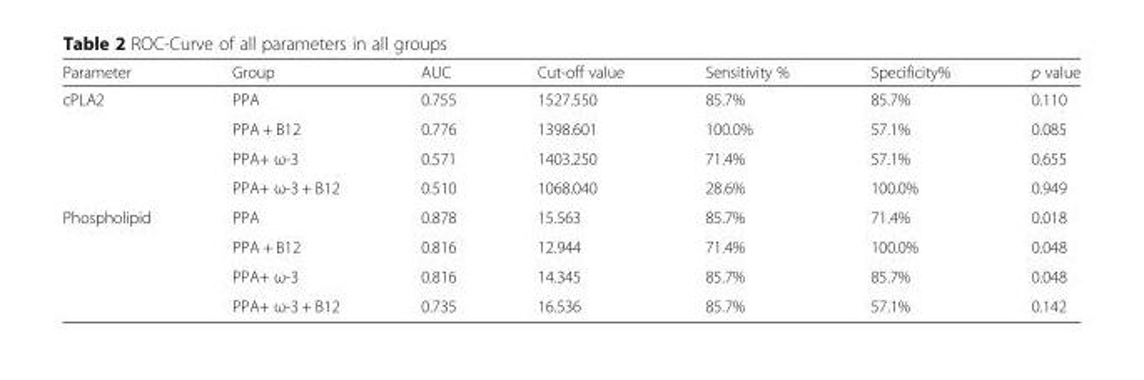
<table><thead><tr><td>Parameter</td><td>Group</td><td>AUC</td><td>Cut-off value</td><td>Sensitivity %</td><td>Specificity%</td><td>p value</td></tr></thead><tbody><tr><td rowspan="4">cPLA2</td><td>PPA</td><td>0.755</td><td>1527.550</td><td>85.7%</td><td>85.7%</td><td>0.110</td></tr><tr><td>PPA + B12</td><td>0.776</td><td>1398.601</td><td>100.0%</td><td>57.1%</td><td>0.085</td></tr><tr><td>PPA+ ω-3</td><td>0.571</td><td>1403.250</td><td>71.4%</td><td>57.1%</td><td>0.655</td></tr><tr><td>PPA+ ω-3 + B12</td><td>0.510</td><td>1068.040</td><td>28.6%</td><td>100.0%</td><td>0.949</td></tr><tr><td rowspan="4">Phospholipid</td><td>PPA</td><td>0.878</td><td>15.563</td><td>85.7%</td><td>71.4%</td><td>0.018</td></tr><tr><td>PPA + B12</td><td>0.816</td><td>12.944</td><td>71.4%</td><td>100.0%</td><td>0.048</td></tr><tr><td>PPA+ ω-3</td><td>0.816</td><td>14.345</td><td>85.7%</td><td>85.7%</td><td>0.048</td></tr><tr><td>PPA+ ω-3 + B12</td><td>0.735</td><td>16.536</td><td>85.7%</td><td>57.1%</td><td>0.142</td></tr></tbody></table>